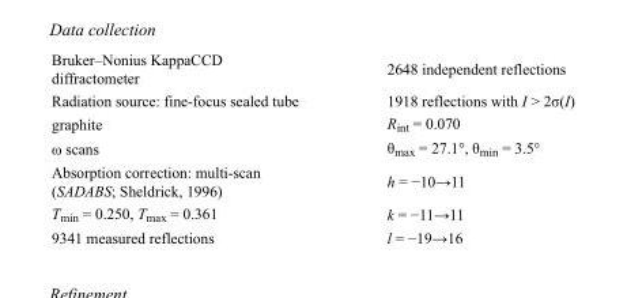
<table><tbody><tr><td>Bruker–Nonius KappaCCD diffractometer</td><td>2648 independent reflections</td></tr><tr><td>Radiation source: fine-focus sealed tube</td><td>1918 reflections with I &gt; 2σ(I)</td></tr><tr><td>graphite</td><td>R<sub>int</sub> = 0.070</td></tr><tr><td>ω scans</td><td>θ<sub>max</sub> = 27.1°, θ<sub>min</sub> = 3.5°</td></tr><tr><td>Absorption correction: multi-scan (SADABS; Sheldrick, 1996)</td><td>h = −10→11</td></tr><tr><td>T<sub>min</sub> = 0.250, T<sub>max</sub> = 0.361</td><td>k = −11→11</td></tr><tr><td>9341 measured reflections</td><td>l = −19→16</td></tr></tbody></table>